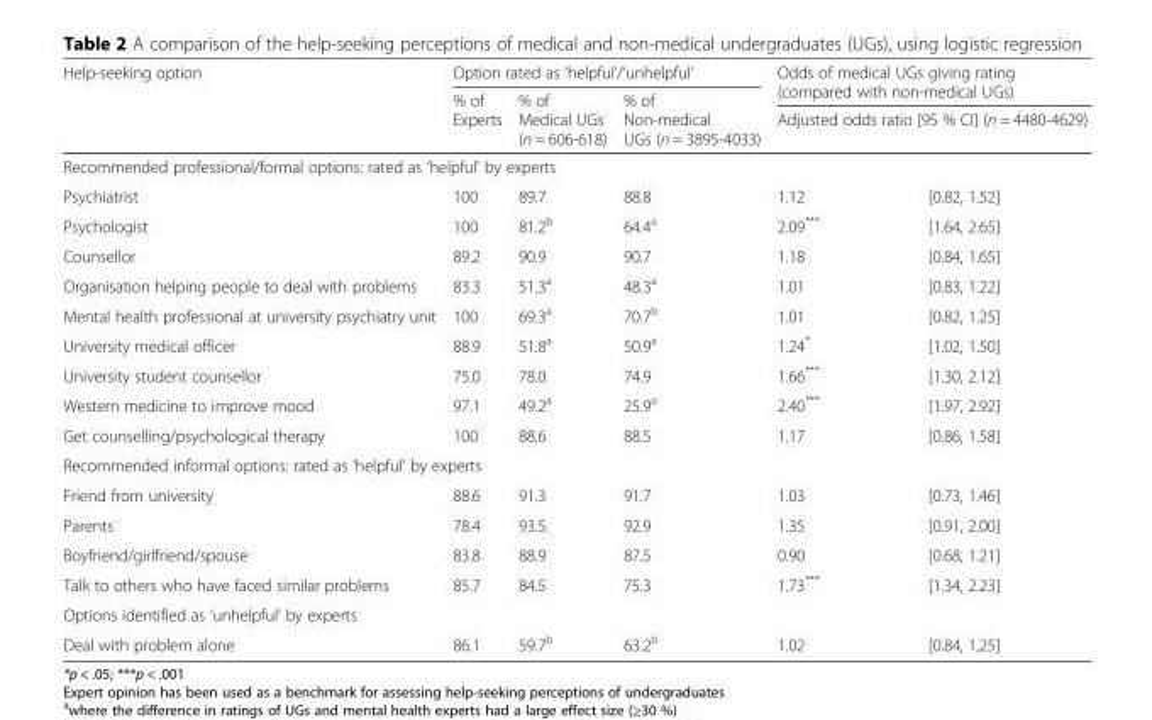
<table><thead><tr><td rowspan="3">Help-seeking option</td><td colspan="3">Option rated as ‘helpful’/‘unhelpful’</td><td rowspan="3" colspan="2">Odds of medical UGs giving rating (compared with non-medical UGs) Adjusted odds ratio [95 % CI] (n = 4480-4629)</td></tr><tr><td rowspan="2">% of Experts</td><td rowspan="2">% of Medical UGs (n = 606-618)</td><td rowspan="2">% of Non-medical UGs (n = 3895-4033)</td></tr><tr></tr><tr><td colspan="6">Recommended professional/formal options: rated as ‘helpful’ by experts</td></tr><tr><td>Psychiatrist</td><td>100</td><td>89.7</td><td>88.8</td><td>1.12</td><td>[0.82, 1.52]</td></tr></thead><tbody><tr><td>Psychologist</td><td>100</td><td>81.2<sup>b</sup></td><td>64.4<sup>a</sup></td><td>2.09***</td><td>[1.64, 2.65]</td></tr><tr><td>Counsellor</td><td>89.2</td><td>90.9</td><td>90.7</td><td>1.18</td><td>[0.84, 1.65]</td></tr><tr><td>Organisation helping people to deal with problems</td><td>83.3</td><td>51.3<sup>a</sup></td><td>48.3<sup>a</sup></td><td>1.01</td><td>[0.83, 1.22]</td></tr><tr><td>Mental health professional at university psychiatry unit</td><td>100</td><td>69.3<sup>a</sup></td><td>70.7<sup>b</sup></td><td>1.01</td><td>[0.82, 1.25]</td></tr><tr><td>University medical officer</td><td>88.9</td><td>51.8<sup>a</sup></td><td>50.9<sup>a</sup></td><td>1.24*</td><td>[1.02, 1.50]</td></tr><tr><td>University student counsellor</td><td>75.0</td><td>78.0</td><td>74.9</td><td>1.66***</td><td>[1.30, 2.12]</td></tr><tr><td>Western medicine to improve mood</td><td>97.1</td><td>49.2<sup>a</sup></td><td>25.9<sup>a</sup></td><td>2.40***</td><td>[1.97, 2.92]</td></tr><tr><td>Get counselling/psychological therapy</td><td>100</td><td>88.6</td><td>88.5</td><td>1.17</td><td>[0.86, 1.58]</td></tr><tr><td colspan="6">Recommended informal options: rated as ‘helpful’ by experts</td></tr><tr><td>Friend from university</td><td>88.6</td><td>91.3</td><td>91.7</td><td>1.03</td><td>[0.73, 1.46]</td></tr><tr><td>Parents</td><td>78.4</td><td>93.5</td><td>92.9</td><td>1.35</td><td>[0.91, 2.00]</td></tr><tr><td>Boyfriend/girlfriend/spouse</td><td>83.8</td><td>88.9</td><td>87.5</td><td>0.90</td><td>[0.68, 1.21]</td></tr><tr><td>Talk to others who have faced similar problems</td><td>85.7</td><td>84.5</td><td>75.3</td><td>1.73***</td><td>[1.34, 2.23]</td></tr><tr><td colspan="6">Options identified as ‘unhelpful’ by experts</td></tr><tr><td>Deal with problem alone</td><td>86.1</td><td>59.7<sup>b</sup></td><td>63.2<sup>b</sup></td><td>1.02</td><td>[0.84, 1,25]</td></tr></tbody></table>